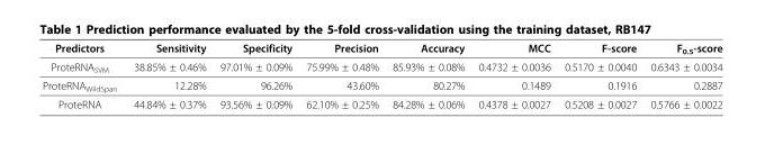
<table><thead><tr><td>Predictors</td><td>Sensitivity</td><td>Specificity</td><td>Precision</td><td>Accuracy</td><td>MCC</td><td>F-score</td><td>F<sub>0.5</sub>-score</td></tr></thead><tbody><tr><td>ProteRNA<sub>SVM</sub></td><td>38.85% ± 0.46%</td><td>97.01% ± 0.09%</td><td>75.99% ± 0.48%</td><td>85.93% ± 0.08%</td><td>0.4732 ± 0.0036</td><td>0.5170 ± 0.0040</td><td>0.6343 ± 0.0034</td></tr><tr><td>ProteRNA<sub>WildSpan</sub></td><td>12.28%</td><td>96.26%</td><td>43.60%</td><td>80.27%</td><td>0.1489</td><td>0.1916</td><td>0.2887</td></tr><tr><td>ProteRNA</td><td>44.84% ± 0.37%</td><td>93.56% ± 0.09%</td><td>62.10% ± 0.25%</td><td>84.28% ± 0.06%</td><td>0.4378 ± 0.0027</td><td>0.5208 ± 0.0027</td><td>0.5766 ± 0.0022</td></tr></tbody></table>